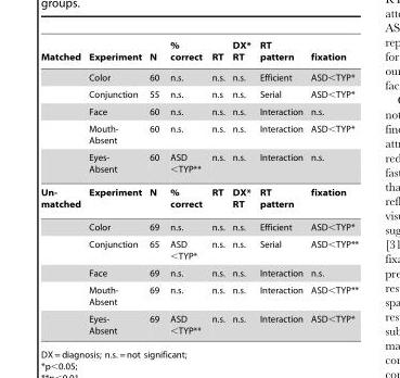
<table><thead><tr><td>Matched</td><td>Experiment</td><td>N</td><td>% correct</td><td>RT</td><td>DX* RT</td><td>RT pattern</td><td>fixation</td></tr></thead><tbody><tr><td></td><td>Color</td><td>60</td><td>n.s.</td><td>n.s.</td><td>n.s.</td><td>Efficient</td><td>ASD&lt;TYP*</td></tr><tr><td></td><td>Conjunction</td><td>55</td><td>n.s.</td><td>n.s</td><td>n.s.</td><td>Serial</td><td>ASD&lt;TYP*</td></tr><tr><td></td><td>Face</td><td>60</td><td>n.s.</td><td>n.s.</td><td>n.s.</td><td>Interaction</td><td>n.s.</td></tr><tr><td></td><td>Mouth- Absent</td><td>60</td><td>n.s.</td><td>n.s.</td><td>n.s.</td><td>Interaction</td><td>ASD&lt;TYP*</td></tr><tr><td></td><td>Eyes- Absent</td><td>60</td><td>ASD &lt;TYP**</td><td>n.s.</td><td>n.s.</td><td>Interaction</td><td>n.s.</td></tr><tr><td rowspan="6">Un- matched</td><td>Experiment</td><td>N</td><td>% correct</td><td>RT</td><td>DX* RT</td><td>RT pattern</td><td>fixation</td></tr><tr><td>Color</td><td>69</td><td>n.s.</td><td>n.s.</td><td>n.s.</td><td>Efficient</td><td>ASD&lt;TYP*</td></tr><tr><td>Conjunction</td><td>65</td><td>ASD &lt;TYP*</td><td>n.s.</td><td>n.s.</td><td>Serial</td><td>ASD&lt;TYP**</td></tr><tr><td>Face</td><td>69</td><td>n.s.</td><td>n.s.</td><td>n.s.</td><td>Interaction</td><td>n.s.</td></tr><tr><td>Mouth- Absent</td><td>69</td><td>n.s.</td><td>n.s.</td><td>n.s.</td><td>Interaction</td><td>ASD&lt;TYP**</td></tr><tr><td>Eyes- Absent</td><td>69</td><td>ASD &lt;TYP**</td><td>n.s.</td><td>n.s.</td><td>Interaction</td><td>ASD&lt;TYP*</td></tr></tbody></table>